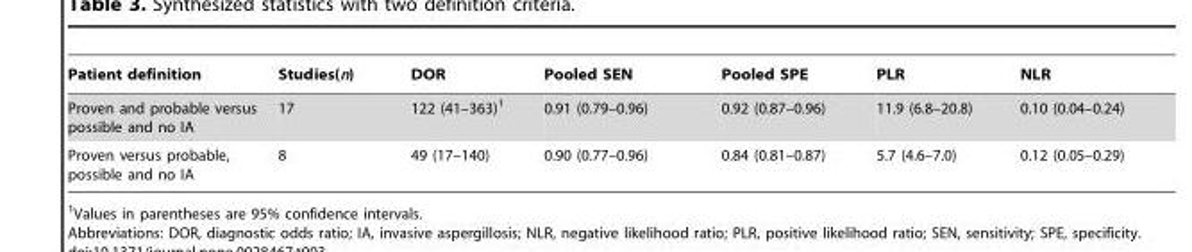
<table><thead><tr><td>Patient definition</td><td>Studies(n)</td><td>DOR</td><td>Pooled SEN</td><td>Pooled SPE</td><td>PLR</td><td>NLR</td></tr></thead><tbody><tr><td>Proven and probable versus possible and no IA</td><td>17</td><td>122 (41–363)<sup>1</sup></td><td>0.91 (0.79–0.96)</td><td>0.92 (0.87–0.96)</td><td>11.9 (6.8–20.8)</td><td>0.10 (0.04–0.24)</td></tr><tr><td>Proven versus probable, possible and no IA</td><td>8</td><td>49 (17–140)</td><td>0.90 (0.77–0.96)</td><td>0.84 (0.81–0.87)</td><td>5.7 (4.6–7.0)</td><td>0.12 (0.05–0.29)</td></tr></tbody></table>